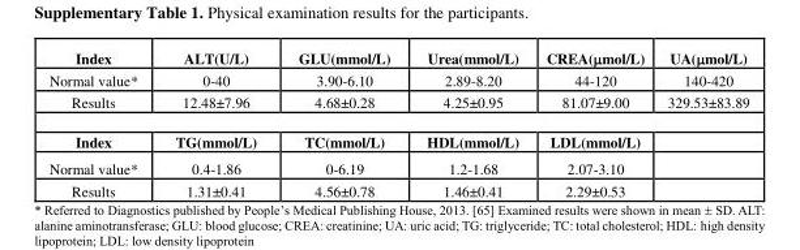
<table><thead><tr><td>Index</td><td>ALT(U/L)</td><td>GLU(mmol/L)</td><td>Urea(mmol/L)</td><td>CREA(μmol/L)</td><td>UA(μmol/L)</td></tr></thead><tbody><tr><td>Normal value*</td><td>0-40</td><td>3.90-6.10</td><td>2.89-8.20</td><td>44-120</td><td>140-420</td></tr><tr><td>Results</td><td>12.48±7.96</td><td>4.68±0.28</td><td>4.25±0.95</td><td>81.07±9.00</td><td>329.53±83.89</td></tr><tr><td>Index</td><td>TG(mmol/L)</td><td>TC(mmol/L)</td><td>HDL(mmol/L)</td><td>LDL(mmol/L)</td><td></td></tr><tr><td>Normal value*</td><td>0.4-1.86</td><td>0-6.19</td><td>1.2-1.68</td><td>2.07-3.10</td><td></td></tr><tr><td>Results</td><td>1.31±0.41</td><td>4.56±0.78</td><td>1.46±0.41</td><td>2.29±0.53</td><td></td></tr></tbody></table>